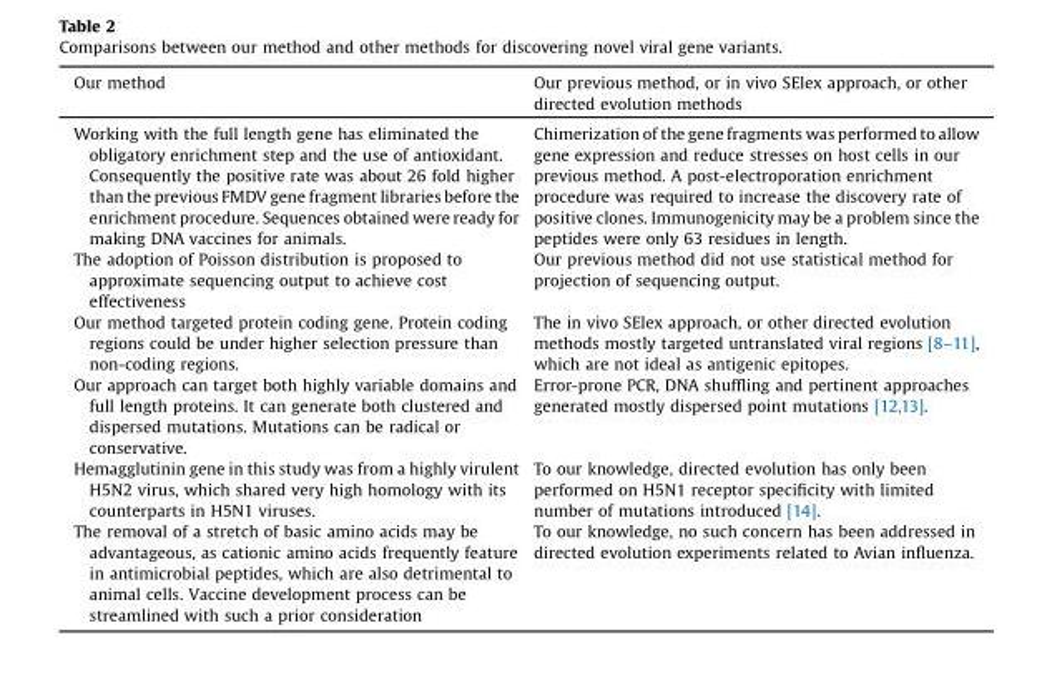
<table><thead><tr><td>Our method</td><td>Our previous method, or in vivo SElex approach, or other directed evolution methods</td></tr></thead><tbody><tr><td>Working with the full length gene has eliminated the obligatory enrichment step and the use of antioxidant. Consequently the positive rate was about 26 fold higher than the previous FMDV gene fragment libraries before the enrichment procedure. Sequences obtained were ready for making DNA vaccines for animals.</td><td>Chimerization of the gene fragments was performed to allow gene expression and reduce stresses on host cells in our previous method. A post-electroporation enrichment procedure was required to increase the discovery rate of positive clones. Immunogenicity may be a problem since the peptides were only 63 residues in length.</td></tr><tr><td>The adoption of Poisson distribution is proposed to approximate sequencing output to achieve cost effectiveness</td><td>Our previous method did not use statistical method for projection of sequencing output.</td></tr><tr><td>Our method targeted protein coding gene. Protein coding regions could be under higher selection pressure than non-coding regions.</td><td>The in vivo SElex approach, or other directed evolution methods mostly targeted untranslated viral regions [8–11], which are not ideal as antigenic epitopes.</td></tr><tr><td>Our approach can target both highly variable domains and full length proteins. It can generate both clustered and dispersed mutations. Mutations can be radical or conservative.</td><td>Error-prone PCR, DNA shuffling and pertinent approaches generated mostly dispersed point mutations [12,13].</td></tr><tr><td>Hemagglutinin gene in this study was from a highly virulent H5N2 virus, which shared very high homology with its counterparts in H5N1 viruses.</td><td>To our knowledge, directed evolution has only been performed on H5N1 receptor specificity with limited number of mutations introduced [14].</td></tr><tr><td>The removal of a stretch of basic amino acids may be advantageous, as cationic amino acids frequently feature in antimicrobial peptides, which are also detrimental to animal cells. Vaccine development process can be streamlined with such a prior consideration</td><td>To our knowledge, no such concern has been addressed in directed evolution experiments related to Avian influenza.</td></tr></tbody></table>